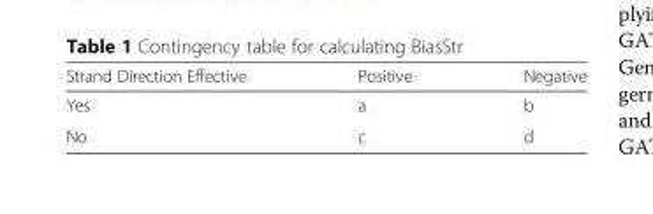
<table><thead><tr><td>Strand Direction Effective</td><td>Positive</td><td>Negative</td></tr></thead><tbody><tr><td>Yes</td><td>a</td><td>b</td></tr><tr><td>No</td><td>c</td><td>d</td></tr></tbody></table>